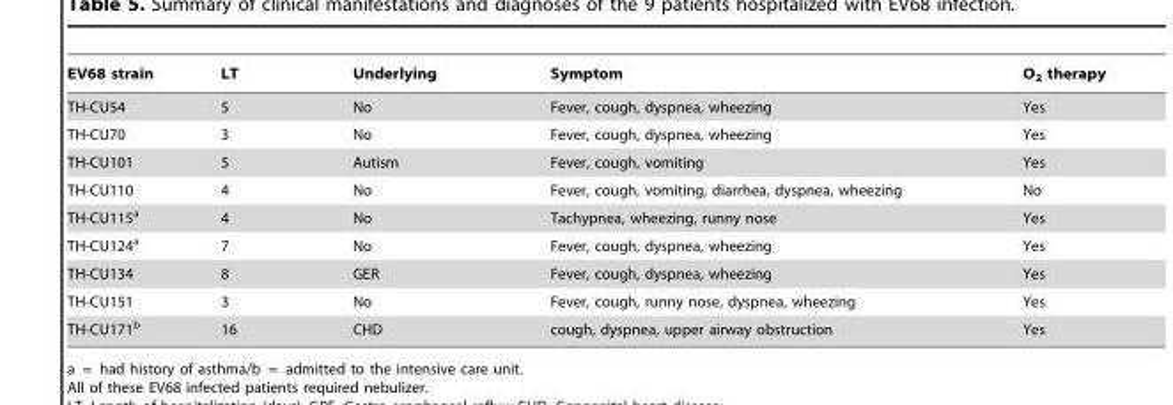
<table><thead><tr><td>EV68 strain</td><td>LT</td><td>Underlying</td><td>Symptom</td><td>O<sub>2</sub> therapy</td></tr></thead><tbody><tr><td>TH-CU54</td><td>5</td><td>No</td><td>Fever, cough, dyspnea, wheezing</td><td>Yes</td></tr><tr><td>TH-CU70</td><td>3</td><td>No</td><td>Fever, cough, dyspnea, wheezing</td><td>Yes</td></tr><tr><td>TH-CU101</td><td>5</td><td>Autism</td><td>Fever, cough, vomiting</td><td>Yes</td></tr><tr><td>TH-CU110</td><td>4</td><td>No</td><td>Fever, cough, vomiting, diarrhea, dyspnea, wheezing</td><td>No</td></tr><tr><td>TH-CU115<sup>a</sup></td><td>4</td><td>No</td><td>Tachypnea, wheezing, runny nose</td><td>Yes</td></tr><tr><td>TH-CU124<sup>a</sup></td><td>7</td><td>No</td><td>Fever, cough, dyspnea, wheezing</td><td>Yes</td></tr><tr><td>TH-CU134</td><td>8</td><td>GER</td><td>Fever, cough, dyspnea, wheezing</td><td>Yes</td></tr><tr><td>TH-CU151</td><td>3</td><td>No</td><td>Fever, cough, runny nose, dyspnea, wheezing</td><td>Yes</td></tr><tr><td>TH-CU171<sup>b</sup></td><td>16</td><td>CHD</td><td>cough, dyspnea, upper airway obstruction</td><td>Yes</td></tr></tbody></table>